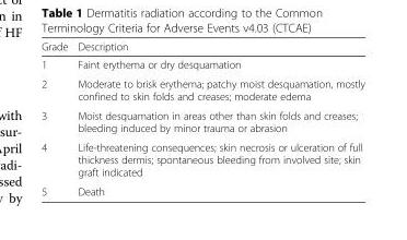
<table><thead><tr><td>Grade</td><td>Description</td></tr></thead><tbody><tr><td>1</td><td>Faint erythema or dry desquamation</td></tr><tr><td>2</td><td>Moderate to brisk erythema; patchy moist desquamation, mostly confined to skin folds and creases; moderate edema</td></tr><tr><td>3</td><td>Moist desquamation in areas other than skin folds and creases; bleeding induced by minor trauma or abrasion</td></tr><tr><td>4</td><td>Life-threatening consequences; skin necrosis or ulceration of full thickness dermis; spontaneous bleeding from involved site; skin graft indicated</td></tr><tr><td>5</td><td>Death</td></tr></tbody></table>